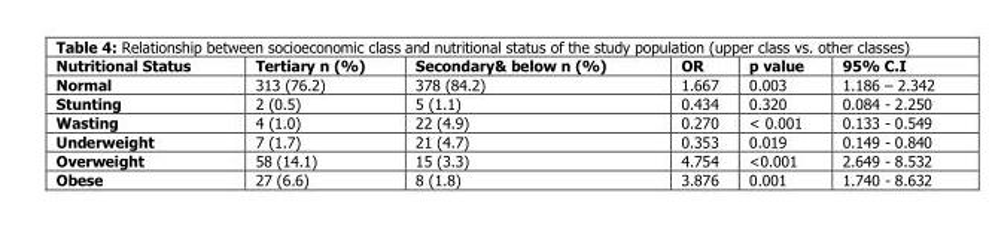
<table><thead><tr><td>Nutritional Status</td><td>Tertiary n (%)</td><td>Secondary&amp; below n (%)</td><td>OR</td><td>p value</td><td>95% C.I</td></tr></thead><tbody><tr><td>Normal</td><td>313 (76.2)</td><td>378 (84.2)</td><td>1.667</td><td>0.003</td><td>1.186 – 2.342</td></tr><tr><td>Stunting</td><td>2 (0.5)</td><td>5 (1.1)</td><td>0.434</td><td>0.320</td><td>0.084 - 2.250</td></tr><tr><td>Wasting</td><td>4 (1.0)</td><td>22 (4.9)</td><td>0.270</td><td>&lt; 0.001</td><td>0.133 - 0.549</td></tr><tr><td>Underweight</td><td>7 (1.7)</td><td>21 (4.7)</td><td>0.353</td><td>0.019</td><td>0.149 - 0.840</td></tr><tr><td>Overweight</td><td>58 (14.1)</td><td>15 (3.3)</td><td>4.754</td><td>&lt;0.001</td><td>2.649 - 8.532</td></tr><tr><td>Obese</td><td>27 (6.6)</td><td>8 (1.8)</td><td>3.876</td><td>0.001</td><td>1.740 - 8.632</td></tr></tbody></table>